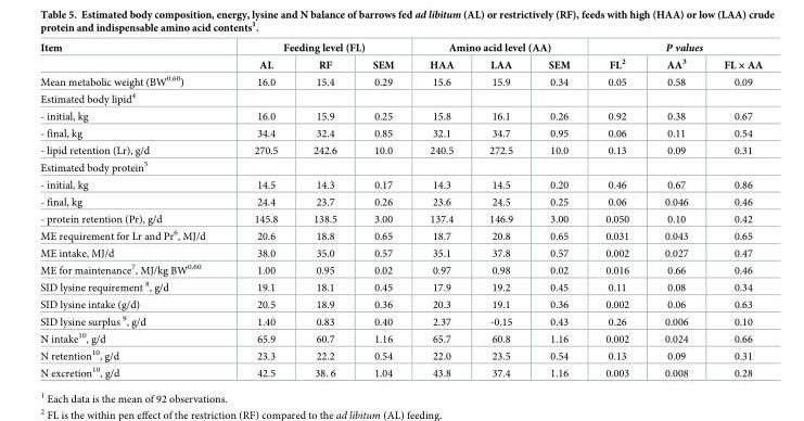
<table><thead><tr><td rowspan="2">Item</td><td colspan="3">Feeding level (FL)</td><td colspan="3">Amino acid level (AA)</td><td colspan="3">P values</td></tr><tr><td>AL</td><td>RF</td><td>SEM</td><td>HAA</td><td>LAA</td><td>SEM</td><td>FL<sup>2</sup></td><td>AA<sup>3</sup></td><td>FL × AA</td></tr></thead><tbody><tr><td>Mean metabolic weight (BW<sup>0.60</sup>)</td><td>16.0</td><td>15.4</td><td>0.29</td><td>15.6</td><td>15.9</td><td>0.34</td><td>0.05</td><td>0.58</td><td>0.09</td></tr><tr><td colspan="10">Estimated body lipid<sup>4</sup></td></tr><tr><td>- initial, kg</td><td>16.0</td><td>15.9</td><td>0.25</td><td>15.8</td><td>16.1</td><td>0.26</td><td>0.92</td><td>0.38</td><td>0.67</td></tr><tr><td>- final, kg</td><td>34.4</td><td>32.4</td><td>0.85</td><td>32.1</td><td>34.7</td><td>0.95</td><td>0.06</td><td>0.11</td><td>0.54</td></tr><tr><td>- lipid retention (Lr), g/d</td><td>270.5</td><td>242.6</td><td>10.0</td><td>240.5</td><td>272.5</td><td>10.0</td><td>0.13</td><td>0.09</td><td>0.31</td></tr><tr><td colspan="10">Estimated body protein<sup>5</sup></td></tr><tr><td>- initial, kg</td><td>14.5</td><td>14.3</td><td>0.17</td><td>14.3</td><td>14.5</td><td>0.20</td><td>0.46</td><td>0.67</td><td>0.86</td></tr><tr><td>- final, kg</td><td>24.4</td><td>23.7</td><td>0.26</td><td>23.6</td><td>24.5</td><td>0.25</td><td>0.06</td><td>0.046</td><td>0.46</td></tr><tr><td>- protein retention (Pr), g/d</td><td>145.8</td><td>138.5</td><td>3.00</td><td>137.4</td><td>146.9</td><td>3.00</td><td>0.050</td><td>0.10</td><td>0.42</td></tr><tr><td>ME requirement for Lr and Pr<sup>6</sup>, MJ/d</td><td>20.6</td><td>18.8</td><td>0.65</td><td>18.7</td><td>20.8</td><td>0.65</td><td>0.031</td><td>0.043</td><td>0.65</td></tr><tr><td>ME intake, MJ/d</td><td>38.0</td><td>35.0</td><td>0.57</td><td>35.1</td><td>37.8</td><td>0.57</td><td>0.002</td><td>0.027</td><td>0.47</td></tr><tr><td>ME for maintenance<sup>7</sup>, MJ/kg BW<sup>0,60</sup></td><td>1.00</td><td>0.95</td><td>0.02</td><td>0.97</td><td>0.98</td><td>0.02</td><td>0.016</td><td>0.66</td><td>0.46</td></tr><tr><td>SID lysine requirement <sup>8</sup>, g/d</td><td>19.1</td><td>18.1</td><td>0.45</td><td>17.9</td><td>19.2</td><td>0.45</td><td>0.11</td><td>0.08</td><td>0.34</td></tr><tr><td>SID lysine intake (g/d)</td><td>20.5</td><td>18.9</td><td>0.36</td><td>20.3</td><td>19.1</td><td>0.36</td><td>0.002</td><td>0.06</td><td>0.63</td></tr><tr><td>SID lysine surplus <sup>9</sup>, g/d</td><td>1.40</td><td>0.83</td><td>0.40</td><td>2.37</td><td>-0.15</td><td>0.43</td><td>0.26</td><td>0.006</td><td>0.10</td></tr><tr><td>N intake<sup>10</sup>, g/d</td><td>65.9</td><td>60.7</td><td>1.16</td><td>65.7</td><td>60.8</td><td>1.16</td><td>0.002</td><td>0.024</td><td>0.66</td></tr><tr><td>N retention<sup>10</sup>, g/d</td><td>23.3</td><td>22.2</td><td>0.54</td><td>22.0</td><td>23.5</td><td>0.54</td><td>0.13</td><td>0.09</td><td>0.31</td></tr><tr><td>N excretion<sup>10</sup>, g/d</td><td>42.5</td><td>38. 6</td><td>1.04</td><td>43.8</td><td>37.4</td><td>1.16</td><td>0.003</td><td>0.008</td><td>0.28</td></tr></tbody></table>